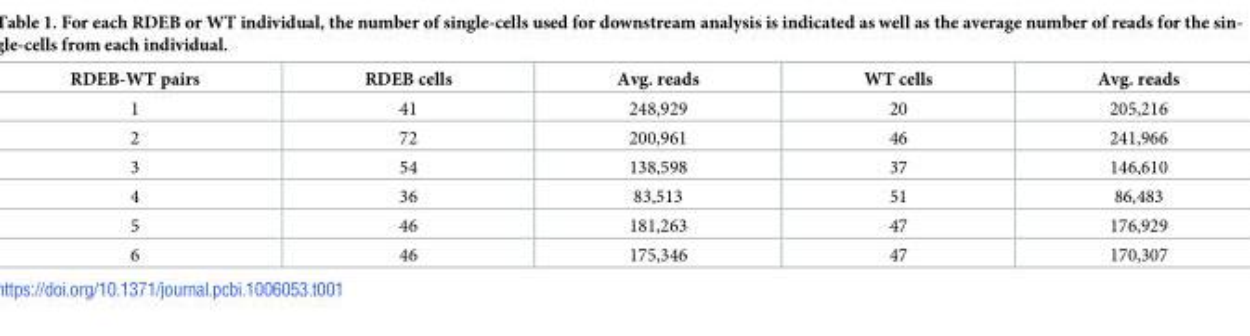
<table><thead><tr><td>RDEB-WT pairs</td><td>RDEB cells</td><td>Avg. reads</td><td>WT cells</td><td>Avg. reads</td></tr></thead><tbody><tr><td>1</td><td>41</td><td>248,929</td><td>20</td><td>205,216</td></tr><tr><td>2</td><td>72</td><td>200,961</td><td>46</td><td>241,966</td></tr><tr><td>3</td><td>54</td><td>138,598</td><td>37</td><td>146,610</td></tr><tr><td>4</td><td>36</td><td>83,513</td><td>51</td><td>86,483</td></tr><tr><td>5</td><td>46</td><td>181,263</td><td>47</td><td>176,929</td></tr><tr><td>6</td><td>46</td><td>175,346</td><td>47</td><td>170,307</td></tr></tbody></table>